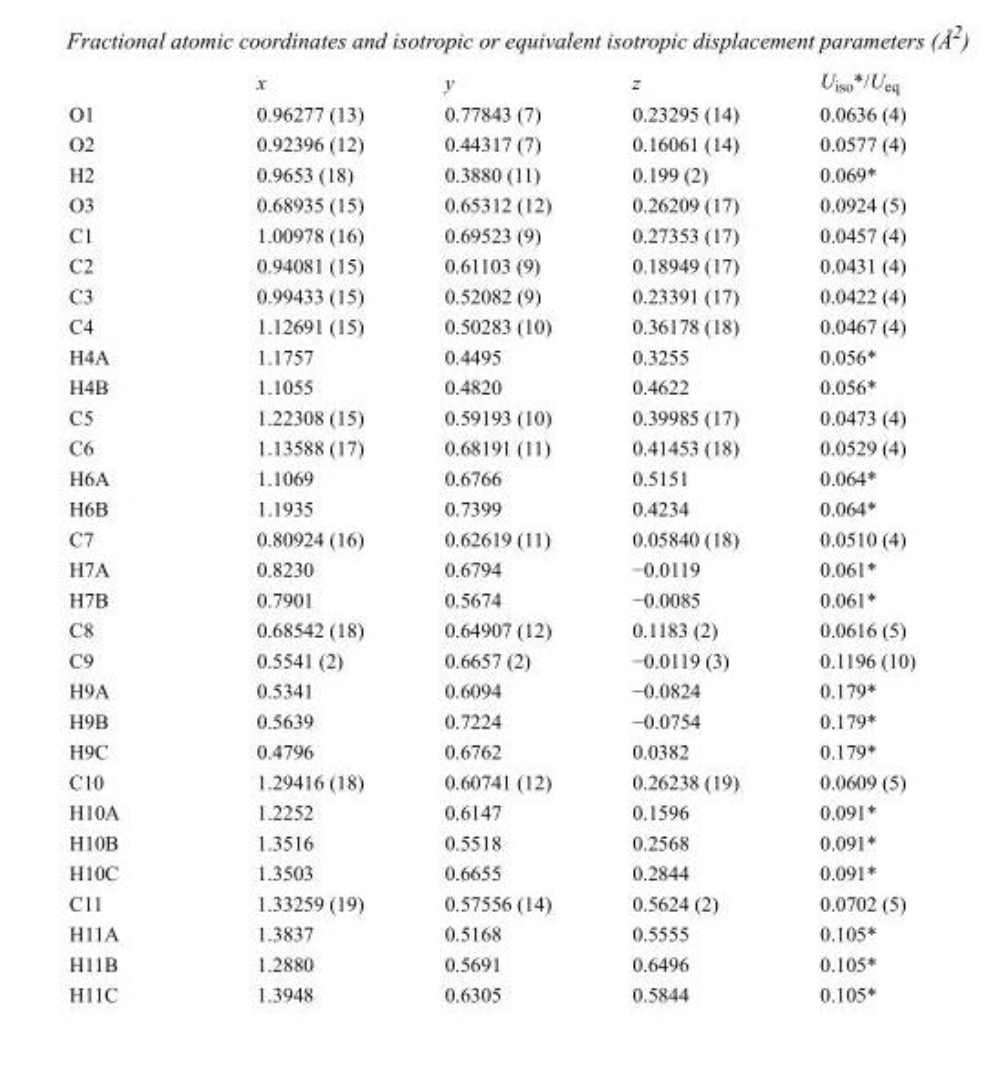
<table><thead><tr><td></td><td>x</td><td>y</td><td>z</td><td>U<sub>iso</sub>*/U<sub>eq</sub></td></tr></thead><tbody><tr><td>O1</td><td>0.96277 (13)</td><td>0.77843 (7)</td><td>0.23295 (14)</td><td>0.0636 (4)</td></tr><tr><td>O2</td><td>0.92396 (12)</td><td>0.44317 (7)</td><td>0.16061 (14)</td><td>0.0577 (4)</td></tr><tr><td>H2</td><td>0.9653 (18)</td><td>0.3880 (11)</td><td>0.199 (2)</td><td>0.069*</td></tr><tr><td>O3</td><td>0.68935 (15)</td><td>0.65312 (12)</td><td>0.26209 (17)</td><td>0.0924 (5)</td></tr><tr><td>C1</td><td>1.00978 (16)</td><td>0.69523 (9)</td><td>0.27353 (17)</td><td>0.0457 (4)</td></tr><tr><td>C2</td><td>0.94081 (15)</td><td>0.61103 (9)</td><td>0.18949 (17)</td><td>0.0431 (4)</td></tr><tr><td>C3</td><td>0.99433 (15)</td><td>0.52082 (9)</td><td>0.23391 (17)</td><td>0.0422 (4)</td></tr><tr><td>C4</td><td>1.12691 (15)</td><td>0.50283 (10)</td><td>0.36178 (18)</td><td>0.0467 (4)</td></tr><tr><td>H4A</td><td>1.1757</td><td>0.4495</td><td>0.3255</td><td>0.056*</td></tr><tr><td>H4B</td><td>1.1055</td><td>0.4820</td><td>0.4622</td><td>0.056*</td></tr><tr><td>C5</td><td>1.22308 (15)</td><td>0.59193 (10)</td><td>0.39985 (17)</td><td>0.0473 (4)</td></tr><tr><td>C6</td><td>1.13588 (17)</td><td>0.68191 (11)</td><td>0.41453 (18)</td><td>0.0529 (4)</td></tr><tr><td>H6A</td><td>1.1069</td><td>0.6766</td><td>0.5151</td><td>0.064*</td></tr><tr><td>H6B</td><td>1.1935</td><td>0.7399</td><td>0.4234</td><td>0.064*</td></tr><tr><td>C7</td><td>0.80924 (16)</td><td>0.62619 (11)</td><td>0.05840 (18)</td><td>0.0510 (4)</td></tr><tr><td>H7A</td><td>0.8230</td><td>0.6794</td><td>−0.0119</td><td>0.061*</td></tr><tr><td>H7B</td><td>0.7901</td><td>0.5674</td><td>−0.0085</td><td>0.061*</td></tr><tr><td>C8</td><td>0.68542 (18)</td><td>0.64907 (12)</td><td>0.1183 (2)</td><td>0.0616 (5)</td></tr><tr><td>C9</td><td>0.5541 (2)</td><td>0.6657 (2)</td><td>−0.0119 (3)</td><td>0.1196 (10)</td></tr><tr><td>H9A</td><td>0.5341</td><td>0.6094</td><td>−0.0824</td><td>0.179*</td></tr><tr><td>H9B</td><td>0.5639</td><td>0.7224</td><td>−0.0754</td><td>0.179*</td></tr><tr><td>H9C</td><td>0.4796</td><td>0.6762</td><td>0.0382</td><td>0.179*</td></tr><tr><td>C10</td><td>1.29416 (18)</td><td>0.60741 (12)</td><td>0.26238 (19)</td><td>0.0609 (5)</td></tr><tr><td>H10A</td><td>1.2252</td><td>0.6147</td><td>0.1596</td><td>0.091*</td></tr><tr><td>H10B</td><td>1.3516</td><td>0.5518</td><td>0.2568</td><td>0.091*</td></tr><tr><td>H10C</td><td>1.3503</td><td>0.6655</td><td>0.2844</td><td>0.091*</td></tr><tr><td>C11</td><td>1.33259 (19)</td><td>0.57556 (14)</td><td>0.5624 (2)</td><td>0.0702 (5)</td></tr><tr><td>H11A</td><td>1.3837</td><td>0.5168</td><td>0.5555</td><td>0.105*</td></tr><tr><td>H11B</td><td>1.2880</td><td>0.5691</td><td>0.6496</td><td>0.105*</td></tr><tr><td>H11C</td><td>1.3948</td><td>0.6305</td><td>0.5844</td><td>0.105*</td></tr></tbody></table>